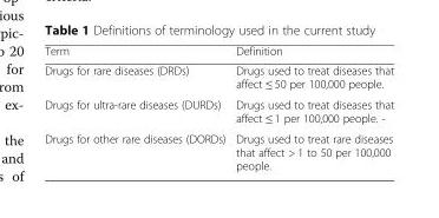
<table><thead><tr><td>Term</td><td>Definition</td></tr></thead><tbody><tr><td>Drugs for rare diseases (DRDs)</td><td>Drugs used to treat diseases that affect ≤ 50 per 100,000 people.</td></tr><tr><td>Drugs for ultra-rare diseases (DURDs)</td><td>Drugs used to treat diseases that affect ≤ 1 per 100,000 people. -</td></tr><tr><td>Drugs for other rare diseases (DORDs)</td><td>Drugs used to treat rare diseases that affect &gt; 1 to 50 per 100,000 people.</td></tr></tbody></table>